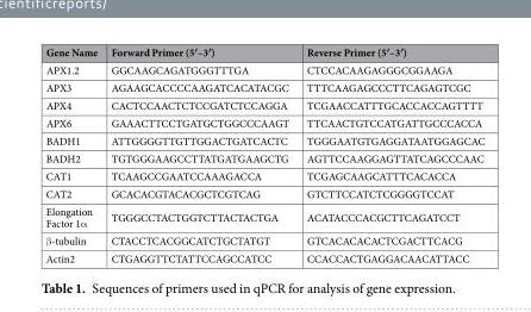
<table><thead><tr><td>Gene Name</td><td>Forward Primer (5′–3′)</td><td>Reverse Primer (5′–3′)</td></tr></thead><tbody><tr><td>APX1.2</td><td>GGCAAGCAGATGGGTTTGA</td><td>CTCCACAAGAGGGCGGAAGA</td></tr><tr><td>APX3</td><td>AGAAGCACCCCAAGATCACATACGC</td><td>TTTCAAGAGCCCTTCAGAGTCGC</td></tr><tr><td>APX4</td><td>CACTCCAACTCTCCGATCTCCAGGA</td><td>TCGAACCATTTGCACCACCAGTTTT</td></tr><tr><td>APX6</td><td>GAAACTTCCTGATGCTGGCCCAAGT</td><td>TTCAACTGTCCATGATTGCCCACCA</td></tr><tr><td>BADH1</td><td>ATTGGGGTTGTTGGACTGATCACTC</td><td>TGGGAATGTGAGGATAATGGAGCAC</td></tr><tr><td>BADH2</td><td>TGTGGGAAGCCTTATGATGAAGCTG</td><td>AGTTCCAAGGAGTTATCAGCCCAAC</td></tr><tr><td>CAT1</td><td>TCAAGCCGAATCCAAAGACCA</td><td>TCGAGCAAGCATTTCACACCA</td></tr><tr><td>CAT2</td><td>GCACACGTACACGCTCGTCAG</td><td>GTCTTCCATCTCGGGGTCCAT</td></tr><tr><td>Elongation Factor 1α</td><td>TGGGCCTACTGGTCTTACTACTGA</td><td>ACATACCCACGCTTCAGATCCT</td></tr><tr><td>β-tubulin</td><td>CTACCTCACGGCATCTGCTATGT</td><td>GTCACACACACTCGACTTCACG</td></tr><tr><td>Actin2</td><td>CTGAGGTTCTATTCCAGCCATCC</td><td>CCACCACTGAGGACAACATTACC</td></tr></tbody></table>